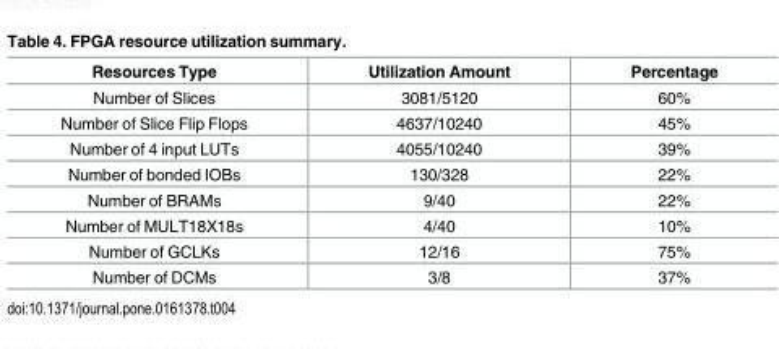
<table><thead><tr><td>Resources Type</td><td>Utilization Amount</td><td>Percentage</td></tr></thead><tbody><tr><td>Number of Slices</td><td>3081/5120</td><td>60%</td></tr><tr><td>Number of Slice Flip Flops</td><td>4637/10240</td><td>45%</td></tr><tr><td>Number of 4 input LUTs</td><td>4055/10240</td><td>39%</td></tr><tr><td>Number of bonded IOBs</td><td>130/328</td><td>22%</td></tr><tr><td>Number of BRAMs</td><td>9/40</td><td>22%</td></tr><tr><td>Number of MULT18X18s</td><td>4/40</td><td>10%</td></tr><tr><td>Number of GCLKs</td><td>12/16</td><td>75%</td></tr><tr><td>Number of DCMs</td><td>3/8</td><td>37%</td></tr></tbody></table>